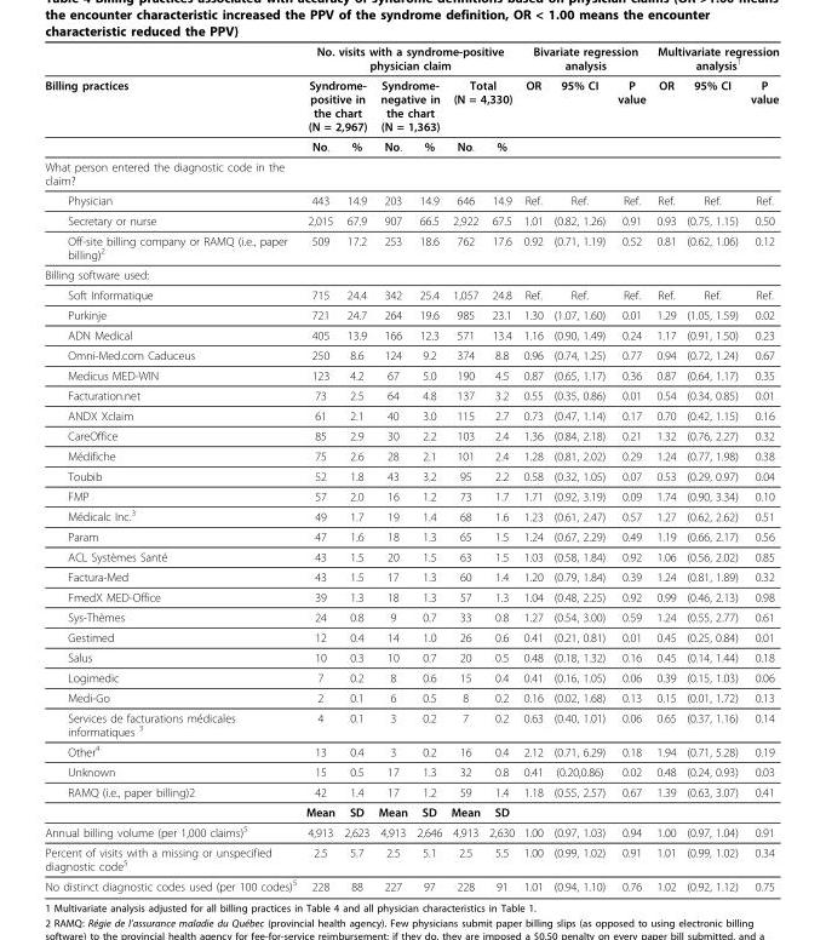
<table><thead><tr><td rowspan="3">Billing practices</td><td colspan="6">No. visits with a syndrome-positive physician claim</td><td colspan="3">Bivariate regression analysis</td><td colspan="3">Multivariate regression analysis1</td></tr><tr><td colspan="2">Syndrome- positive in the chart (N = 2,967)</td><td colspan="2">Syndrome- negative in the chart (N = 1,363)</td><td colspan="2">Total (N = 4,330)</td><td rowspan="2">OR</td><td rowspan="2">95% CI</td><td rowspan="2">P value</td><td rowspan="2">OR</td><td rowspan="2">95% CI</td><td rowspan="2">P value</td></tr><tr><td>No.</td><td>%</td><td>No.</td><td>%</td><td>No.</td><td>%</td></tr></thead><tbody><tr><td colspan="13">What person entered the diagnostic code in the claim?</td></tr><tr><td>Physician</td><td>443</td><td>14.9</td><td>203</td><td>14.9</td><td>646</td><td>14.9</td><td>Ref.</td><td>Ref.</td><td>Ref.</td><td>Ref.</td><td>Ref.</td><td>Ref.</td></tr><tr><td>Secretary or nurse</td><td>2,015</td><td>67.9</td><td>907</td><td>66.5</td><td>2,922</td><td>67.5</td><td>1.01</td><td>(0.82, 1.26)</td><td>0.91</td><td>0.93</td><td>(0.75, 1.15)</td><td>0.50</td></tr><tr><td>Off-site billing company or RAMQ (i.e., paper billing)2</td><td>509</td><td>17.2</td><td>253</td><td>18.6</td><td>762</td><td>17.6</td><td>0.92</td><td>(0.71, 1.19)</td><td>0.52</td><td>0.81</td><td>(0.62, 1.06)</td><td>0.12</td></tr><tr><td colspan="13">Billing software used:</td></tr><tr><td>Soft Informatique</td><td>715</td><td>24.4</td><td>342</td><td>25.4</td><td>1,057</td><td>24.8</td><td>Ref.</td><td>Ref.</td><td>Ref.</td><td>Ref.</td><td>Ref.</td><td>Ref.</td></tr><tr><td>Purkinje</td><td>721</td><td>24.7</td><td>264</td><td>19.6</td><td>985</td><td>23.1</td><td>1.30</td><td>(1.07, 1.60)</td><td>0.01</td><td>1.29</td><td>(1.05, 1.59)</td><td>0.02</td></tr><tr><td>ADN Medical</td><td>405</td><td>13.9</td><td>166</td><td>12.3</td><td>571</td><td>13.4</td><td>1.16</td><td>(0.90, 1.49)</td><td>0.24</td><td>1.17</td><td>(0.91, 1.50)</td><td>0.23</td></tr><tr><td>Omni-Med.com Caduceus</td><td>250</td><td>8.6</td><td>124</td><td>9.2</td><td>374</td><td>8.8</td><td>0.96</td><td>(0.74, 1.25)</td><td>0.77</td><td>0.94</td><td>(0.72, 1.24)</td><td>0.67</td></tr><tr><td>Medicus MED-WIN</td><td>123</td><td>4.2</td><td>67</td><td>5.0</td><td>190</td><td>4.5</td><td>0.87</td><td>(0.65, 1.17)</td><td>0.36</td><td>0.87</td><td>(0.64, 1.17)</td><td>0.35</td></tr><tr><td>Facturation.net</td><td>73</td><td>2.5</td><td>64</td><td>4.8</td><td>137</td><td>3.2</td><td>0.55</td><td>(0.35, 0.86)</td><td>0.01</td><td>0.54</td><td>(0.34, 0.85)</td><td>0.01</td></tr><tr><td>ANDX Xclaim</td><td>61</td><td>2.1</td><td>40</td><td>3.0</td><td>115</td><td>2.7</td><td>0.73</td><td>(0.47, 1.14)</td><td>0.17</td><td>0.70</td><td>(0.42, 1.15)</td><td>0.16</td></tr><tr><td>CareOffice</td><td>85</td><td>2.9</td><td>30</td><td>2.2</td><td>103</td><td>2.4</td><td>1.36</td><td>(0.84, 2.18)</td><td>0.21</td><td>1.32</td><td>(0.76, 2.27)</td><td>0.32</td></tr><tr><td>Médifiche</td><td>75</td><td>2.6</td><td>28</td><td>2.1</td><td>101</td><td>2.4</td><td>1.28</td><td>(0.81, 2.02)</td><td>0.29</td><td>1.24</td><td>(0.77, 1.98)</td><td>0.38</td></tr><tr><td>Toubib</td><td>52</td><td>1.8</td><td>43</td><td>3.2</td><td>95</td><td>2.2</td><td>0.58</td><td>(0.32, 1.05)</td><td>0.07</td><td>0.53</td><td>(0.29, 0.97)</td><td>0.04</td></tr><tr><td>FMP</td><td>57</td><td>2.0</td><td>16</td><td>1.2</td><td>73</td><td>1.7</td><td>1.71</td><td>(0.92, 3.19)</td><td>0.09</td><td>1.74</td><td>(0.90, 3.34)</td><td>0.10</td></tr><tr><td>Médicalc Inc.3</td><td>49</td><td>1.7</td><td>19</td><td>1.4</td><td>68</td><td>1.6</td><td>1.23</td><td>(0.61, 2.47)</td><td>0.57</td><td>1.27</td><td>(0.62, 2.62)</td><td>0.51</td></tr><tr><td>Param</td><td>47</td><td>1.6</td><td>18</td><td>1.3</td><td>65</td><td>1.5</td><td>1.24</td><td>(0.67, 2.29)</td><td>0.49</td><td>1.19</td><td>(0.66, 2.17)</td><td>0.56</td></tr><tr><td>ACL Systèmes Santé</td><td>43</td><td>1.5</td><td>20</td><td>1.5</td><td>63</td><td>1.5</td><td>1.03</td><td>(0.58, 1.84)</td><td>0.92</td><td>1.06</td><td>(0.56, 2.02)</td><td>0.85</td></tr><tr><td>Factura-Med</td><td>43</td><td>1.5</td><td>17</td><td>1.3</td><td>60</td><td>1.4</td><td>1.20</td><td>(0.79, 1.84)</td><td>0.39</td><td>1.24</td><td>(0.81, 1.89)</td><td>0.32</td></tr><tr><td>FmedX MED-Office</td><td>39</td><td>1.3</td><td>18</td><td>1.3</td><td>57</td><td>1.3</td><td>1.04</td><td>(0.48, 2.25)</td><td>0.92</td><td>0.99</td><td>(0.46, 2.13)</td><td>0.98</td></tr><tr><td>Sys-Thèmes</td><td>24</td><td>0.8</td><td>9</td><td>0.7</td><td>33</td><td>0.8</td><td>1.27</td><td>(0.54, 3.00)</td><td>0.59</td><td>1.24</td><td>(0.55, 2.77)</td><td>0.61</td></tr><tr><td>Gestimed</td><td>12</td><td>0.4</td><td>14</td><td>1.0</td><td>26</td><td>0.6</td><td>0.41</td><td>(0.21, 0.81)</td><td>0.01</td><td>0.45</td><td>(0.25, 0.84)</td><td>0.01</td></tr><tr><td>Salus</td><td>10</td><td>0.3</td><td>10</td><td>0.7</td><td>20</td><td>0.5</td><td>0.48</td><td>(0.18, 1.32)</td><td>0.16</td><td>0.45</td><td>(0.14, 1.44)</td><td>0.18</td></tr><tr><td>Logimedic</td><td>7</td><td>0.2</td><td>8</td><td>0.6</td><td>15</td><td>0.4</td><td>0.41</td><td>(0.16, 1.05)</td><td>0.06</td><td>0.39</td><td>(0.15, 1.03)</td><td>0.06</td></tr><tr><td>Medi-Go</td><td>2</td><td>0.1</td><td>6</td><td>0.5</td><td>8</td><td>0.2</td><td>0.16</td><td>(0.02, 1.68)</td><td>0.13</td><td>0.15</td><td>(0.01, 1.72)</td><td>0.13</td></tr><tr><td>Services de facturations médicales informatiques 3</td><td>4</td><td>0.1</td><td>3</td><td>0.2</td><td>7</td><td>0.2</td><td>0.63</td><td>(0.40, 1.01)</td><td>0.06</td><td>0.65</td><td>(0.37, 1.16)</td><td>0.14</td></tr><tr><td>Other4</td><td>13</td><td>0.4</td><td>3</td><td>0.2</td><td>16</td><td>0.4</td><td>2.12</td><td>(0.71, 6.29)</td><td>0.18</td><td>1.94</td><td>(0.71, 5.28)</td><td>0.19</td></tr><tr><td>Unknown</td><td>15</td><td>0.5</td><td>17</td><td>1.3</td><td>32</td><td>0.8</td><td>0.41</td><td>(0.20,0.86)</td><td>0.02</td><td>0.48</td><td>(0.24, 0.93)</td><td>0.03</td></tr><tr><td rowspan="2">RAMQ (i.e., paper billing)2</td><td>42</td><td>1.4</td><td>17</td><td>1.2</td><td>59</td><td>1.4</td><td>1.18</td><td>(0.55, 2.57)</td><td>0.67</td><td>1.39</td><td>(0.63, 3.07)</td><td>0.41</td></tr><tr><td>Mean</td><td>SD</td><td>Mean</td><td>SD</td><td>Mean</td><td>SD</td><td></td><td></td><td></td><td></td><td></td><td></td></tr><tr><td>Annual billing volume (per 1,000 claims)5</td><td>4,913</td><td>2,623</td><td>4,913</td><td>2,646</td><td>4,913</td><td>2,630</td><td>1.00</td><td>(0.97, 1.03)</td><td>0.94</td><td>1.00</td><td>(0.97, 1.04)</td><td>0.91</td></tr><tr><td>Percent of visits with a missing or unspecified diagnostic code5</td><td>2.5</td><td>5.7</td><td>2.5</td><td>5.1</td><td>2.5</td><td>5.5</td><td>1.00</td><td>(0.99, 1.02)</td><td>0.91</td><td>1.01</td><td>(0.99, 1.02)</td><td>0.34</td></tr><tr><td>No distinct diagnostic codes used (per 100 codes)5</td><td>228</td><td>88</td><td>227</td><td>97</td><td>228</td><td>91</td><td>1.01</td><td>(0.94, 1.10)</td><td>0.76</td><td>1.02</td><td>(0.92, 1.12)</td><td>0.75</td></tr></tbody></table>